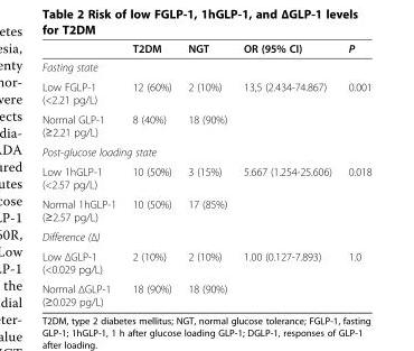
<table><thead><tr><td></td><td>T2DM</td><td>NGT</td><td>OR (95% CI)</td><td>P</td></tr></thead><tbody><tr><td colspan="5">Fasting state</td></tr><tr><td>Low FGLP-1 (&lt;2.21 pg/L)</td><td>12 (60%)</td><td>2 (10%)</td><td rowspan="2">13,5 (2.434-74.867)</td><td rowspan="2">0.001</td></tr><tr><td>Normal GLP-1 (≥2.21 pg/L)</td><td>8 (40%)</td><td>18 (90%)</td></tr><tr><td colspan="5">Post-glucose loading state</td></tr><tr><td>Low 1hGLP-1 (&lt;2.57 pg/L)</td><td>10 (50%)</td><td>3 (15%)</td><td rowspan="2">5.667 (1.254-25.606)</td><td rowspan="2">0.018</td></tr><tr><td>Normal 1hGLP-1 (≥2.57 pg/L)</td><td>10 (50%)</td><td>17 (85%)</td></tr><tr><td colspan="5">Difference (Δ)</td></tr><tr><td>Low ΔGLP-1 (&lt;0.029 pg/L)</td><td>2 (10%)</td><td>2 (10%)</td><td>1.00 (0.127-7.893)</td><td>1.0</td></tr><tr><td>Normal ΔGLP-1 (≥0.029 pg/L)</td><td>18 (90%)</td><td>18 (90%)</td><td></td><td></td></tr></tbody></table>